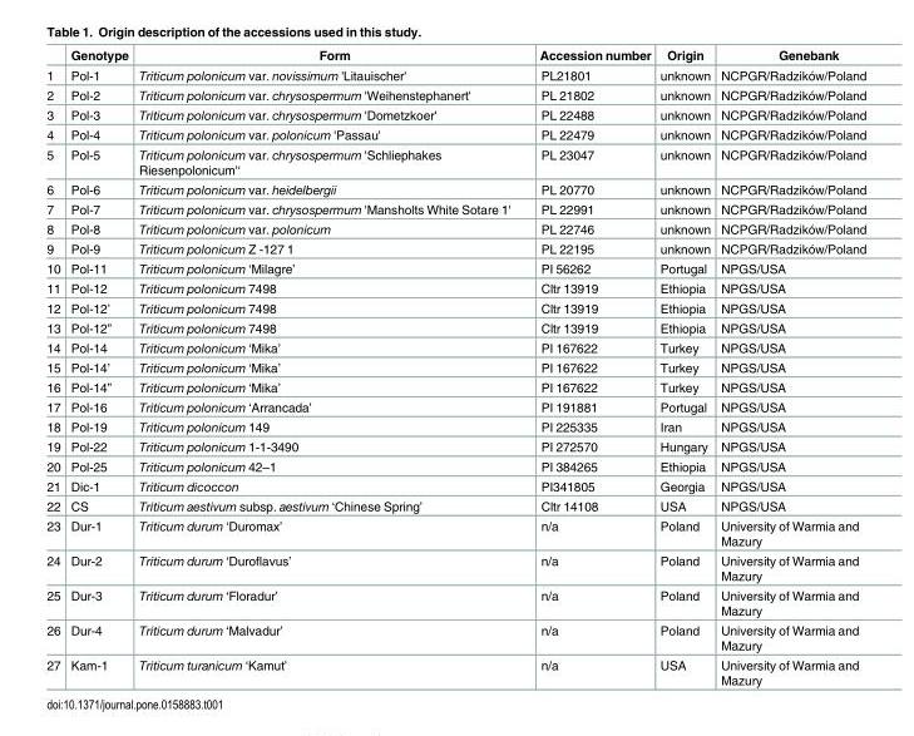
<table><thead><tr><td></td><td>Genotype</td><td>Form</td><td>Accession number</td><td>Origin</td><td>Genebank</td></tr></thead><tbody><tr><td>1</td><td>Pol-1</td><td>Triticum polonicum var. novissimum &#x27;Litauischer&#x27;</td><td>PL21801</td><td>unknown</td><td>NCPGR/Radzików/Poland</td></tr><tr><td>2</td><td>Pol-2</td><td>Triticum polonicum var. chrysospermum &#x27;Weihenstephanert&#x27;</td><td>PL 21802</td><td>unknown</td><td>NCPGR/Radzików/Poland</td></tr><tr><td>3</td><td>Pol-3</td><td>Triticum polonicum var. chrysospermum &#x27;Dometzkoer&#x27;</td><td>PL 22488</td><td>unknown</td><td>NCPGR/Radzików/Poland</td></tr><tr><td>4</td><td>Pol-4</td><td>Triticum polonicum var. polonicum &#x27;Passau&#x27;</td><td>PL 22479</td><td>unknown</td><td>NCPGR/Radzików/Poland</td></tr><tr><td>5</td><td>Pol-5</td><td>Triticum polonicum var. chrysospermum &#x27;Schliephakes Riesenpolonicum&#x27;‘</td><td>PL 23047</td><td>unknown</td><td>NCPGR/Radzików/Poland</td></tr><tr><td>6</td><td>Pol-6</td><td>Triticum polonicum var. heidelbergii</td><td>PL 20770</td><td>unknown</td><td>NCPGR/Radzików/Poland</td></tr><tr><td>7</td><td>Pol-7</td><td>Triticum polonicum var. chrysospermum &#x27;Mansholts White Sotare 1&#x27;</td><td>PL 22991</td><td>unknown</td><td>NCPGR/Radzików/Poland</td></tr><tr><td>8</td><td>Pol-8</td><td>Triticum polonicum var. polonicum</td><td>PL 22746</td><td>unknown</td><td>NCPGR/Radzików/Poland</td></tr><tr><td>9</td><td>Pol-9</td><td>Triticum polonicum Z -127 1</td><td>PL 22195</td><td>unknown</td><td>NCPGR/Radzików/Poland</td></tr><tr><td>10</td><td>Pol-11</td><td>Triticum polonicum ‘Milagre’</td><td>PI 56262</td><td>Portugal</td><td>NPGS/USA</td></tr><tr><td>11</td><td>Pol-12</td><td>Triticum polonicum 7498</td><td>Cltr 13919</td><td>Ethiopia</td><td>NPGS/USA</td></tr><tr><td>12</td><td>Pol-12’</td><td>Triticum polonicum 7498</td><td>Cltr 13919</td><td>Ethiopia</td><td>NPGS/USA</td></tr><tr><td>13</td><td>Pol-12”</td><td>Triticum polonicum 7498</td><td>Cltr 13919</td><td>Ethiopia</td><td>NPGS/USA</td></tr><tr><td>14</td><td>Pol-14</td><td>Triticum polonicum ‘Mika’</td><td>PI 167622</td><td>Turkey</td><td>NPGS/USA</td></tr><tr><td>15</td><td>Pol-14’</td><td>Triticum polonicum ‘Mika’</td><td>PI 167622</td><td>Turkey</td><td>NPGS/USA</td></tr><tr><td>16</td><td>Pol-14”</td><td>Triticum polonicum ‘Mika’</td><td>PI 167622</td><td>Turkey</td><td>NPGS/USA</td></tr><tr><td>17</td><td>Pol-16</td><td>Triticum polonicum ‘Arrancada’</td><td>PI 191881</td><td>Portugal</td><td>NPGS/USA</td></tr><tr><td>18</td><td>Pol-19</td><td>Triticum polonicum 149</td><td>PI 225335</td><td>Iran</td><td>NPGS/USA</td></tr><tr><td>19</td><td>Pol-22</td><td>Triticum polonicum 1-1-3490</td><td>PI 272570</td><td>Hungary</td><td>NPGS/USA</td></tr><tr><td>20</td><td>Pol-25</td><td>Triticum polonicum 42–1</td><td>PI 384265</td><td>Ethiopia</td><td>NPGS/USA</td></tr><tr><td>21</td><td>Dic-1</td><td>Triticum dicoccon</td><td>PI341805</td><td>Georgia</td><td>NPGS/USA</td></tr><tr><td>22</td><td>CS</td><td>Triticum aestivum subsp. aestivum ‘Chinese Spring’</td><td>Cltr 14108</td><td>USA</td><td>NPGS/USA</td></tr><tr><td>23</td><td>Dur-1</td><td>Triticum durum ‘Duromax’</td><td>n/a</td><td>Poland</td><td>University of Warmia and Mazury</td></tr><tr><td>24</td><td>Dur-2</td><td>Triticum durum ‘Duroflavus’</td><td>n/a</td><td>Poland</td><td>University of Warmia and Mazury</td></tr><tr><td>25</td><td>Dur-3</td><td>Triticum durum ‘Floradur’</td><td>n/a</td><td>Poland</td><td>University of Warmia and Mazury</td></tr><tr><td>26</td><td>Dur-4</td><td>Triticum durum ‘Malvadur’</td><td>n/a</td><td>Poland</td><td>University of Warmia and Mazury</td></tr><tr><td>27</td><td>Kam-1</td><td>Triticum turanicum ‘Kamut’</td><td>n/a</td><td>USA</td><td>University of Warmia and Mazury</td></tr></tbody></table>